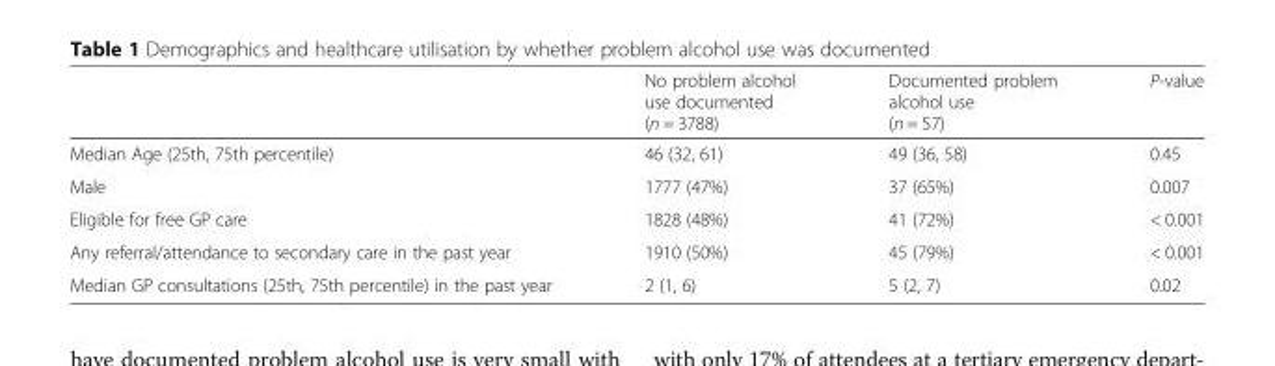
<table><thead><tr><td></td><td>No problem alcohol use documented (n = 3788)</td><td>Documented problem alcohol use (n = 57)</td><td>P-value</td></tr></thead><tbody><tr><td>Median Age (25th, 75th percentile)</td><td>46 (32, 61)</td><td>49 (36, 58)</td><td>0.45</td></tr><tr><td>Male</td><td>1777 (47%)</td><td>37 (65%)</td><td>0.007</td></tr><tr><td>Eligible for free GP care</td><td>1828 (48%)</td><td>41 (72%)</td><td>&lt; 0.001</td></tr><tr><td>Any referral/attendance to secondary care in the past year</td><td>1910 (50%)</td><td>45 (79%)</td><td>&lt; 0.001</td></tr><tr><td>Median GP consultations (25th, 75th percentile) in the past year</td><td>2 (1, 6)</td><td>5 (2, 7)</td><td>0.02</td></tr></tbody></table>